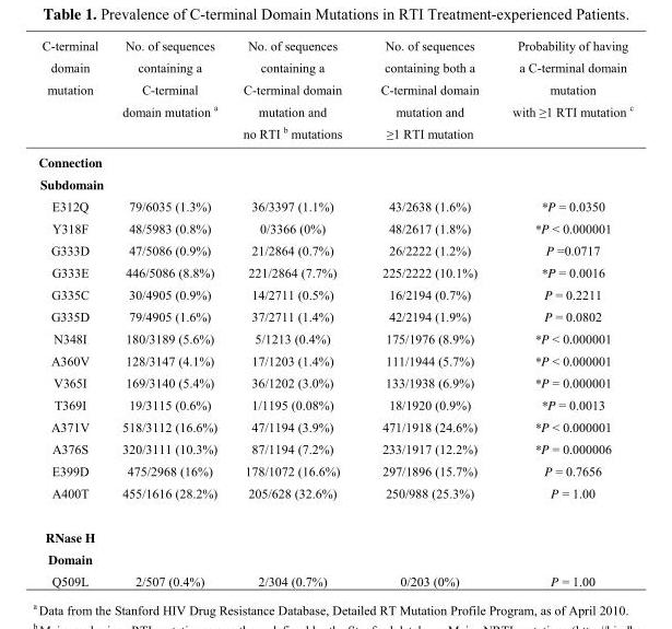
<table><thead><tr><td>C-terminal domain mutation</td><td>No. of sequences containing a C-terminal domain mutation <sup>a</sup></td><td>No. of sequences containing a C-terminal domain mutation and no RTI <sup>b</sup> mutations</td><td>No. of sequences containing both a C-terminal domain mutation and ≥1 RTI mutation</td><td>Probability of having a C-terminal domain mutation with ≥1 RTI mutation <sup>c</sup></td></tr></thead><tbody><tr><td colspan="5">Connection Subdomain</td></tr><tr><td>E312Q</td><td>79/6035 (1.3%)</td><td>36/3397 (1.1%)</td><td>43/2638 (1.6%)</td><td>*P = 0.0350</td></tr><tr><td>Y318F</td><td>48/5983 (0.8%)</td><td>0/3366 (0%)</td><td>48/2617 (1.8%)</td><td>*P &lt; 0.000001</td></tr><tr><td>G333D</td><td>47/5086 (0.9%)</td><td>21/2864 (0.7%)</td><td>26/2222 (1.2%)</td><td>P =0.0717</td></tr><tr><td>G333E</td><td>446/5086 (8.8%)</td><td>221/2864 (7.7%)</td><td>225/2222 (10.1%)</td><td>*P = 0.0016</td></tr><tr><td>G335C</td><td>30/4905 (0.9%)</td><td>14/2711 (0.5%)</td><td>16/2194 (0.7%)</td><td>P = 0.2211</td></tr><tr><td>G335D</td><td>79/4905 (1.6%)</td><td>37/2711 (1.4%)</td><td>42/2194 (1.9%)</td><td>P = 0.0802</td></tr><tr><td>N348I</td><td>180/3189 (5.6%)</td><td>5/1213 (0.4%)</td><td>175/1976 (8.9%)</td><td>*P &lt; 0.000001</td></tr><tr><td>A360V</td><td>128/3147 (4.1%)</td><td>17/1203 (1.4%)</td><td>111/1944 (5.7%)</td><td>*P &lt; 0.000001</td></tr><tr><td>V365I</td><td>169/3140 (5.4%)</td><td>36/1202 (3.0%)</td><td>133/1938 (6.9%)</td><td>*P = 0.000001</td></tr><tr><td>T369I</td><td>19/3115 (0.6%)</td><td>1/1195 (0.08%)</td><td>18/1920 (0.9%)</td><td>*P = 0.0013</td></tr><tr><td>A371V</td><td>518/3112 (16.6%)</td><td>47/1194 (3.9%)</td><td>471/1918 (24.6%)</td><td>*P &lt; 0.000001</td></tr><tr><td>A376S</td><td>320/3111 (10.3%)</td><td>87/1194 (7.2%)</td><td>233/1917 (12.2%)</td><td>*P = 0.000006</td></tr><tr><td>E399D</td><td>475/2968 (16%)</td><td>178/1072 (16.6%)</td><td>297/1896 (15.7%)</td><td>P = 0.7656</td></tr><tr><td>A400T</td><td>455/1616 (28.2%)</td><td>205/628 (32.6%)</td><td>250/988 (25.3%)</td><td>P = 1.00</td></tr><tr><td colspan="5">RNase H Domain</td></tr><tr><td>Q509L</td><td>2/507 (0.4%)</td><td>2/304 (0.7%)</td><td>0/203 (0%)</td><td>P = 1.00</td></tr></tbody></table>